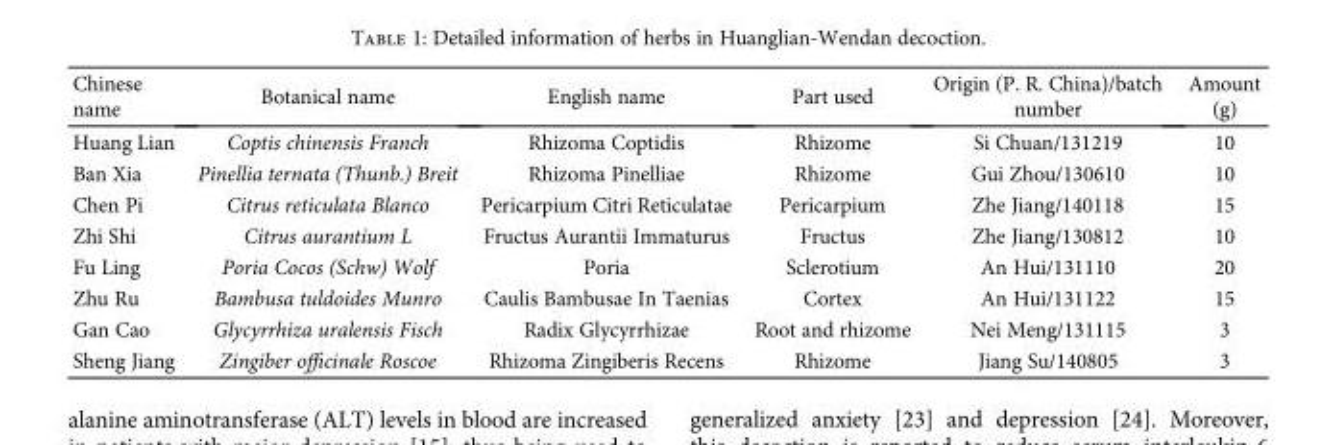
<table><thead><tr><td>Chinese name</td><td>Botanical name</td><td>English name</td><td>Part used</td><td>Origin (P. R. China)/batch number</td><td>Amount (g)</td></tr></thead><tbody><tr><td>Huang Lian</td><td>Coptis chinensis Franch</td><td>Rhizoma Coptidis</td><td>Rhizome</td><td>Si Chuan/131219</td><td>10</td></tr><tr><td>Ban Xia</td><td>Pinellia ternata (Thunb.) Breit</td><td>Rhizoma Pinelliae</td><td>Rhizome</td><td>Gui Zhou/130610</td><td>10</td></tr><tr><td>Chen Pi</td><td>Citrus reticulata Blanco</td><td>Pericarpium Citri Reticulatae</td><td>Pericarpium</td><td>Zhe Jiang/140118</td><td>15</td></tr><tr><td>Zhi Shi</td><td>Citrus aurantium L</td><td>Fructus Aurantii Immaturus</td><td>Fructus</td><td>Zhe Jiang/130812</td><td>10</td></tr><tr><td>Fu Ling</td><td>Poria Cocos (Schw) Wolf</td><td>Poria</td><td>Sclerotium</td><td>An Hui/131110</td><td>20</td></tr><tr><td>Zhu Ru</td><td>Bambusa tuldoides Munro</td><td>Caulis Bambusae In Taenias</td><td>Cortex</td><td>An Hui/131122</td><td>15</td></tr><tr><td>Gan Cao</td><td>Glycyrrhiza uralensis Fisch</td><td>Radix Glycyrrhizae</td><td>Root and rhizome</td><td>Nei Meng/131115</td><td>3</td></tr><tr><td>Sheng Jiang</td><td>Zingiber officinale Roscoe</td><td>Rhizoma Zingiberis Recens</td><td>Rhizome</td><td>Jiang Su/140805</td><td>3</td></tr></tbody></table>